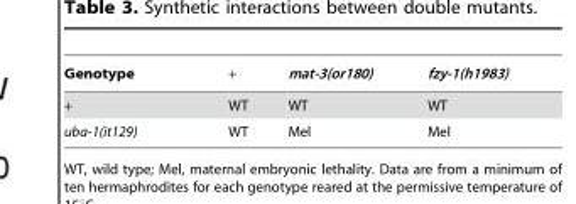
<table><thead><tr><td>Genotype</td><td>+</td><td>mat-3(or180)</td><td>fzy-1(h1983)</td></tr></thead><tbody><tr><td>+</td><td>WT</td><td>WT</td><td>WT</td></tr><tr><td>uba-1(it129)</td><td>WT</td><td>Mel</td><td>Mel</td></tr></tbody></table>